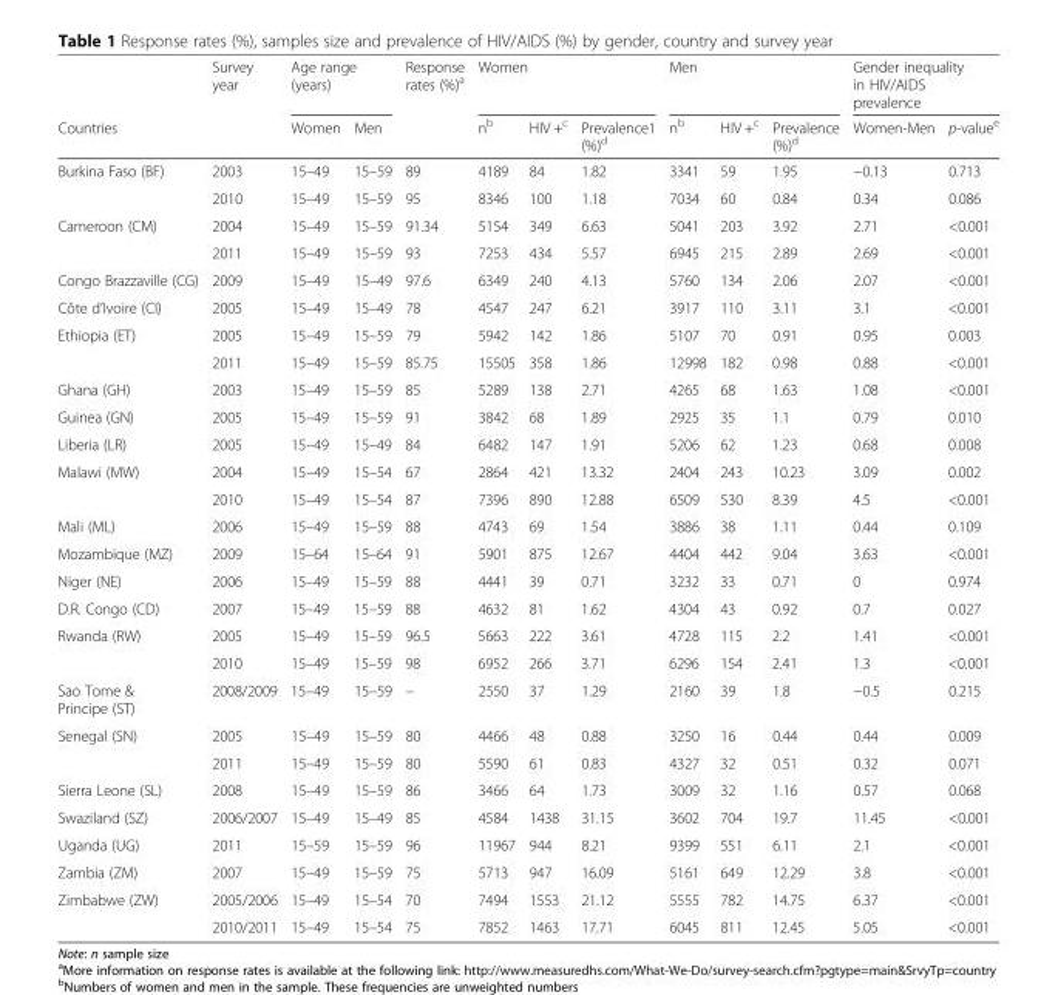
<table><thead><tr><td rowspan="2">Countries</td><td rowspan="2">Survey year</td><td colspan="2">Age range (years)</td><td rowspan="2">Response rates (%)<sup>a</sup></td><td colspan="3">Women</td><td colspan="3">Men</td><td colspan="2">Gender inequality in HIV/AIDS prevalence</td></tr><tr><td>Women</td><td>Men</td><td>n<sup>b</sup></td><td>HIV +<sup>c</sup></td><td>Prevalence1 (%)<sup>d</sup></td><td>n<sup>b</sup></td><td>HIV +<sup>c</sup></td><td>Prevalence (%)<sup>d</sup></td><td>Women-Men</td><td>p-value<sup>e</sup></td></tr></thead><tbody><tr><td rowspan="2">Burkina Faso (BF)</td><td>2003</td><td>15–49</td><td>15–59</td><td>89</td><td>4189</td><td>84</td><td>1.82</td><td>3341</td><td>59</td><td>1.95</td><td>−0.13</td><td>0.713</td></tr><tr><td>2010</td><td>15–49</td><td>15–59</td><td>95</td><td>8346</td><td>100</td><td>1.18</td><td>7034</td><td>60</td><td>0.84</td><td>0.34</td><td>0.086</td></tr><tr><td rowspan="2">Cameroon (CM)</td><td>2004</td><td>15–49</td><td>15–59</td><td>91.34</td><td>5154</td><td>349</td><td>6.63</td><td>5041</td><td>203</td><td>3.92</td><td>2.71</td><td>&lt;0.001</td></tr><tr><td>2011</td><td>15–49</td><td>15–59</td><td>93</td><td>7253</td><td>434</td><td>5.57</td><td>6945</td><td>215</td><td>2.89</td><td>2.69</td><td>&lt;0.001</td></tr><tr><td>Congo Brazzaville (CG)</td><td>2009</td><td>15–49</td><td>15–49</td><td>97.6</td><td>6349</td><td>240</td><td>4.13</td><td>5760</td><td>134</td><td>2.06</td><td>2.07</td><td>&lt;0.001</td></tr><tr><td>Côte d’Ivoire (CI)</td><td>2005</td><td>15–49</td><td>15–49</td><td>78</td><td>4547</td><td>247</td><td>6.21</td><td>3917</td><td>110</td><td>3.11</td><td>3.1</td><td>&lt;0.001</td></tr><tr><td rowspan="2">Ethiopia (ET)</td><td>2005</td><td>15–49</td><td>15–59</td><td>79</td><td>5942</td><td>142</td><td>1.86</td><td>5107</td><td>70</td><td>0.91</td><td>0.95</td><td>0.003</td></tr><tr><td>2011</td><td>15–49</td><td>15–59</td><td>85.75</td><td>15505</td><td>358</td><td>1.86</td><td>12998</td><td>182</td><td>0.98</td><td>0.88</td><td>&lt;0.001</td></tr><tr><td>Ghana (GH)</td><td>2003</td><td>15–49</td><td>15–59</td><td>85</td><td>5289</td><td>138</td><td>2.71</td><td>4265</td><td>68</td><td>1.63</td><td>1.08</td><td>&lt;0.001</td></tr><tr><td>Guinea (GN)</td><td>2005</td><td>15–49</td><td>15–59</td><td>91</td><td>3842</td><td>68</td><td>1.89</td><td>2925</td><td>35</td><td>1.1</td><td>0.79</td><td>0.010</td></tr><tr><td>Liberia (LR)</td><td>2005</td><td>15–49</td><td>15–49</td><td>84</td><td>6482</td><td>147</td><td>1.91</td><td>5206</td><td>62</td><td>1.23</td><td>0.68</td><td>0.008</td></tr><tr><td rowspan="2">Malawi (MW)</td><td>2004</td><td>15–49</td><td>15–54</td><td>67</td><td>2864</td><td>421</td><td>13.32</td><td>2404</td><td>243</td><td>10.23</td><td>3.09</td><td>0.002</td></tr><tr><td>2010</td><td>15–49</td><td>15–54</td><td>87</td><td>7396</td><td>890</td><td>12.88</td><td>6509</td><td>530</td><td>8.39</td><td>4.5</td><td>&lt;0.001</td></tr><tr><td>Mali (ML)</td><td>2006</td><td>15–49</td><td>15–59</td><td>88</td><td>4743</td><td>69</td><td>1.54</td><td>3886</td><td>38</td><td>1.11</td><td>0.44</td><td>0.109</td></tr><tr><td>Mozambique (MZ)</td><td>2009</td><td>15–64</td><td>15–64</td><td>91</td><td>5901</td><td>875</td><td>12.67</td><td>4404</td><td>442</td><td>9.04</td><td>3.63</td><td>&lt;0.001</td></tr><tr><td>Niger (NE)</td><td>2006</td><td>15–49</td><td>15–59</td><td>88</td><td>4441</td><td>39</td><td>0.71</td><td>3232</td><td>33</td><td>0.71</td><td>0</td><td>0.974</td></tr><tr><td>D.R. Congo (CD)</td><td>2007</td><td>15–49</td><td>15–59</td><td>88</td><td>4632</td><td>81</td><td>1.62</td><td>4304</td><td>43</td><td>0.92</td><td>0.7</td><td>0.027</td></tr><tr><td rowspan="2">Rwanda (RW)</td><td>2005</td><td>15–49</td><td>15–59</td><td>96.5</td><td>5663</td><td>222</td><td>3.61</td><td>4728</td><td>115</td><td>2.2</td><td>1.41</td><td>&lt;0.001</td></tr><tr><td>2010</td><td>15–49</td><td>15–59</td><td>98</td><td>6952</td><td>266</td><td>3.71</td><td>6296</td><td>154</td><td>2.41</td><td>1.3</td><td>&lt;0.001</td></tr><tr><td>Sao Tome &amp; Principe (ST)</td><td>2008/2009</td><td>15–49</td><td>15–59</td><td>–</td><td>2550</td><td>37</td><td>1.29</td><td>2160</td><td>39</td><td>1.8</td><td>−0.5</td><td>0.215</td></tr><tr><td rowspan="2">Senegal (SN)</td><td>2005</td><td>15–49</td><td>15–59</td><td>80</td><td>4466</td><td>48</td><td>0.88</td><td>3250</td><td>16</td><td>0.44</td><td>0.44</td><td>0.009</td></tr><tr><td>2011</td><td>15–49</td><td>15–59</td><td>80</td><td>5590</td><td>61</td><td>0.83</td><td>4327</td><td>32</td><td>0.51</td><td>0.32</td><td>0.071</td></tr><tr><td>Sierra Leone (SL)</td><td>2008</td><td>15–49</td><td>15–59</td><td>86</td><td>3466</td><td>64</td><td>1.73</td><td>3009</td><td>32</td><td>1.16</td><td>0.57</td><td>0.068</td></tr><tr><td>Swaziland (SZ)</td><td>2006/2007</td><td>15–49</td><td>15–49</td><td>85</td><td>4584</td><td>1438</td><td>31.15</td><td>3602</td><td>704</td><td>19.7</td><td>11.45</td><td>&lt;0.001</td></tr><tr><td>Uganda (UG)</td><td>2011</td><td>15–59</td><td>15–59</td><td>96</td><td>11967</td><td>944</td><td>8.21</td><td>9399</td><td>551</td><td>6.11</td><td>2.1</td><td>&lt;0.001</td></tr><tr><td>Zambia (ZM)</td><td>2007</td><td>15–49</td><td>15–59</td><td>75</td><td>5713</td><td>947</td><td>16.09</td><td>5161</td><td>649</td><td>12.29</td><td>3.8</td><td>&lt;0.001</td></tr><tr><td rowspan="2">Zimbabwe (ZW)</td><td>2005/2006</td><td>15–49</td><td>15–54</td><td>70</td><td>7494</td><td>1553</td><td>21.12</td><td>5555</td><td>782</td><td>14.75</td><td>6.37</td><td>&lt;0.001</td></tr><tr><td>2010/2011</td><td>15–49</td><td>15–54</td><td>75</td><td>7852</td><td>1463</td><td>17.71</td><td>6045</td><td>811</td><td>12.45</td><td>5.05</td><td>&lt;0.001</td></tr></tbody></table>